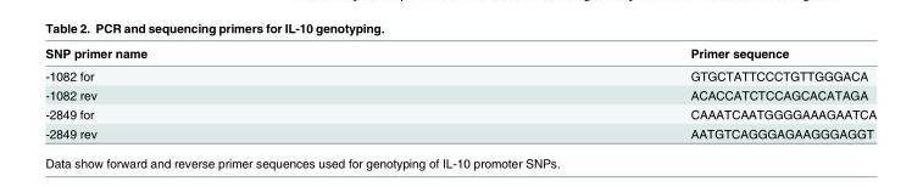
<table><thead><tr><td>SNP primer name</td><td>Primer sequence</td></tr></thead><tbody><tr><td>-1082 for</td><td>GTGCTATTCCCTGTTGGGACA</td></tr><tr><td>-1082 rev</td><td>ACACCATCTCCAGCACATAGA</td></tr><tr><td>-2849 for</td><td>CAAATCAATGGGGAAAGAATCA</td></tr><tr><td>-2849 rev</td><td>AATGTCAGGGAGAAGGGAGGT</td></tr></tbody></table>